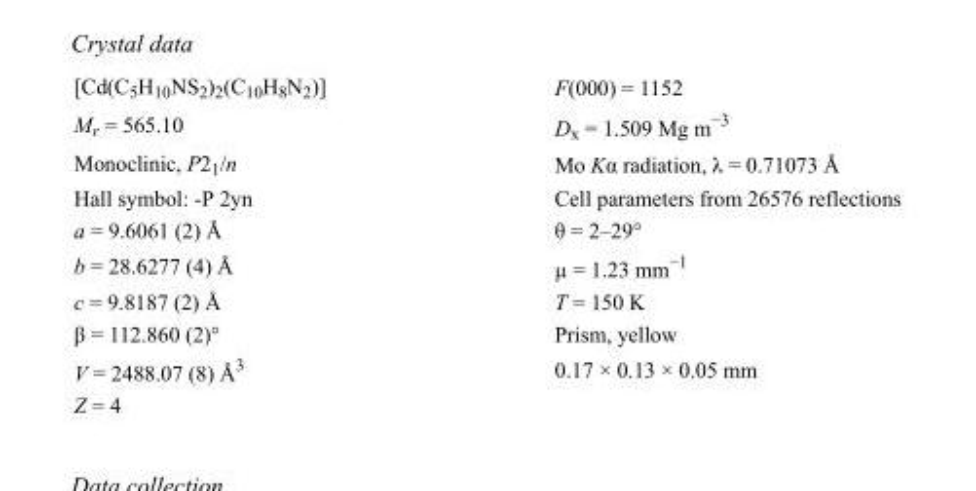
<table><tbody><tr><td>[Cd(C<sub>5</sub>H<sub>10</sub>NS<sub>2</sub>)<sub>2</sub>(C<sub>10</sub>H<sub>8</sub>N<sub>2</sub>)]</td><td>F(000) = 1152</td></tr><tr><td>M<sub>r</sub> = 565.10</td><td>D<sub>x</sub> = 1.509 Mg m<sup>−3</sup></td></tr><tr><td>Monoclinic, P2<sub>1</sub>/n</td><td>Mo Kα radiation, λ = 0.71073 Å</td></tr><tr><td>Hall symbol: -P 2yn</td><td>Cell parameters from 26576 reflections</td></tr><tr><td>a = 9.6061 (2) Å</td><td>θ = 2–29°</td></tr><tr><td>b = 28.6277 (4) Å</td><td>µ = 1.23 mm<sup>−1</sup></td></tr><tr><td>c = 9.8187 (2) Å</td><td>T = 150 K</td></tr><tr><td>β = 112.860 (2)°</td><td>Prism, yellow</td></tr><tr><td>V = 2488.07 (8) Å<sup>3</sup></td><td>0.17 × 0.13 × 0.05 mm</td></tr><tr><td>Z = 4</td><td></td></tr></tbody></table>